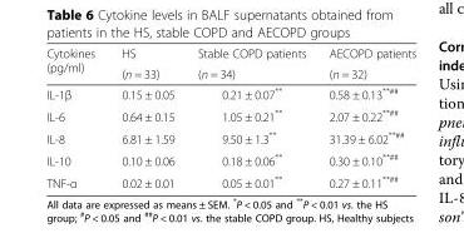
<table><thead><tr><td rowspan="2">Cytokines (pg/ml)</td><td rowspan="2">HS (n = 33)</td><td rowspan="2">Stable COPD patients (n = 34)</td><td rowspan="2">AECOPD patients (n = 32)</td></tr><tr></tr></thead><tbody><tr><td>IL-1β</td><td>0.15 ± 0.05</td><td>0.21 ± 0.07**</td><td>0.58 ± 0.13<sup>**##</sup></td></tr><tr><td>IL-6</td><td>0.64 ± 0.15</td><td>1.05 ± 0.21**</td><td>2.07 ± 0.22<sup>**##</sup></td></tr><tr><td>IL-8</td><td>6.81 ± 1.59</td><td>9.50 ± 1.3**</td><td>31.39 ± 6.02<sup>**##</sup></td></tr><tr><td>IL-10</td><td>0.10 ± 0.06</td><td>0.18 ± 0.06**</td><td>0.30 ± 0.10<sup>**##</sup></td></tr><tr><td>TNF-α</td><td>0.02 ± 0.01</td><td>0.05 ± 0.01**</td><td>0.27 ± 0.11<sup>**##</sup></td></tr></tbody></table>